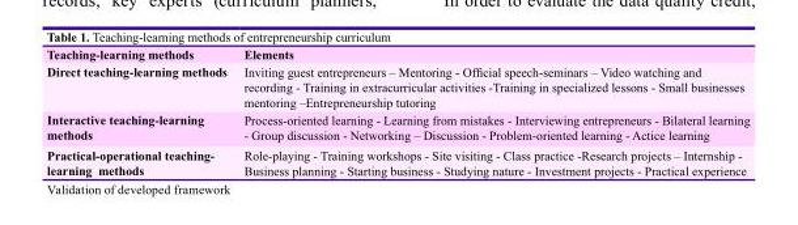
<table><thead><tr><td>Teaching-learning methods</td><td>Elements</td></tr></thead><tbody><tr><td>Direct teaching-learning methods</td><td>Inviting guest entrepreneurs – Mentoring - Official speech-seminars – Video watching and recording - Training in extracurricular activities -Training in specialized lessons - Small businesses mentoring –Entrepreneurship tutoring</td></tr><tr><td>Interactive teaching-learning methods</td><td>Process-oriented learning - Learning from mistakes - Interviewing entrepreneurs - Bilateral learning - Group discussion - Networking – Discussion - Problem-oriented learning - Actice learning</td></tr><tr><td>Practical-operational teaching- learning methods</td><td>Role-playing - Training workshops - Site visiting - Class practice -Research projects – Internship - Business planning - Starting business - Studying nature - Investment projects - Practical experience</td></tr></tbody></table>